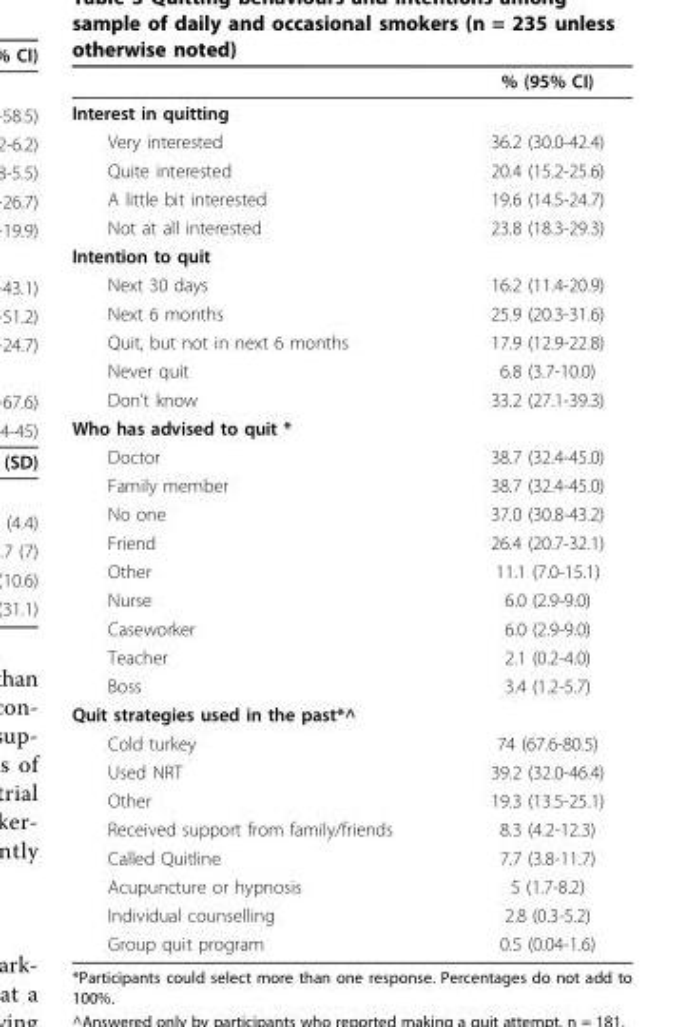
<table><thead><tr><td></td><td>% (95% CI)</td></tr></thead><tbody><tr><td colspan="2">Interest in quitting</td></tr><tr><td>Very interested</td><td>36.2 (30.0-42.4)</td></tr><tr><td>Quite interested</td><td>20.4 (15.2-25.6)</td></tr><tr><td>A little bit interested</td><td>19.6 (14.5-24.7)</td></tr><tr><td>Not at all interested</td><td>23.8 (18.3-29.3)</td></tr><tr><td colspan="2">Intention to quit</td></tr><tr><td>Next 30 days</td><td>16.2 (11.4-20.9)</td></tr><tr><td>Next 6 months</td><td>25.9 (20.3-31.6)</td></tr><tr><td>Quit, but not in next 6 months</td><td>17.9 (12.9-22.8)</td></tr><tr><td>Never quit</td><td>6.8 (3.7-10.0)</td></tr><tr><td>Don’t know</td><td>33.2 (27.1-39.3)</td></tr><tr><td colspan="2">Who has advised to quit *</td></tr><tr><td>Doctor</td><td>38.7 (32.4-45.0)</td></tr><tr><td>Family member</td><td>38.7 (32.4-45.0)</td></tr><tr><td>No one</td><td>37.0 (30.8-43.2)</td></tr><tr><td>Friend</td><td>26.4 (20.7-32.1)</td></tr><tr><td>Other</td><td>11.1 (7.0-15.1)</td></tr><tr><td>Nurse</td><td>6.0 (2.9-9.0)</td></tr><tr><td>Caseworker</td><td>6.0 (2.9-9.0)</td></tr><tr><td>Teacher</td><td>2.1 (0.2-4.0)</td></tr><tr><td>Boss</td><td>3.4 (1.2-5.7)</td></tr><tr><td colspan="2">Quit strategies used in the past*^</td></tr><tr><td>Cold turkey</td><td>74 (67.6-80.5)</td></tr><tr><td>Used NRT</td><td>39.2 (32.0-46.4)</td></tr><tr><td>Other</td><td>19.3 (13.5-25.1)</td></tr><tr><td>Received support from family/friends</td><td>8.3 (4.2-12.3)</td></tr><tr><td>Called Quitline</td><td>7.7 (3.8-11.7)</td></tr><tr><td>Acupuncture or hypnosis</td><td>5 (1.7-8.2)</td></tr><tr><td>Individual counselling</td><td>2.8 (0.3-5.2)</td></tr><tr><td>Group quit program</td><td>0.5 (0.04-1.6)</td></tr></tbody></table>